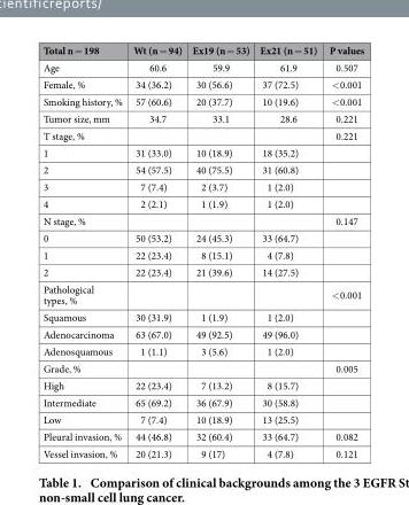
<table><thead><tr><td>Total n = 198</td><td>Wt (n = 94)</td><td>Ex19 (n = 53)</td><td>Ex21 (n = 51)</td><td>P values</td></tr></thead><tbody><tr><td>Age</td><td>60.6</td><td>59.9</td><td>61.9</td><td>0.507</td></tr><tr><td>Female, %</td><td>34 (36.2)</td><td>30 (56.6)</td><td>37 (72.5)</td><td>&lt; 0.001</td></tr><tr><td>Smoking history, %</td><td>57 (60.6)</td><td>20 (37.7)</td><td>10 (19.6)</td><td>&lt; 0.001</td></tr><tr><td>Tumor size, mm</td><td>34.7</td><td>33.1</td><td>28.6</td><td>0.221</td></tr><tr><td>T stage, %</td><td></td><td></td><td></td><td>0.221</td></tr><tr><td>1</td><td>31 (33.0)</td><td>10 (18.9)</td><td>18 (35.2)</td><td></td></tr><tr><td>2</td><td>54 (57.5)</td><td>40 (75.5)</td><td>31 (60.8)</td><td></td></tr><tr><td>3</td><td>7 (7.4)</td><td>2 (3.7)</td><td>1 (2.0)</td><td></td></tr><tr><td>4</td><td>2 (2.1)</td><td>1 (1.9)</td><td>1 (2.0)</td><td></td></tr><tr><td>N stage, %</td><td></td><td></td><td></td><td>0.147</td></tr><tr><td>0</td><td>50 (53.2)</td><td>24 (45.3)</td><td>33 (64.7)</td><td></td></tr><tr><td>1</td><td>22 (23.4)</td><td>8 (15.1)</td><td>4 (7.8)</td><td></td></tr><tr><td>2</td><td>22 (23.4)</td><td>21 (39.6)</td><td>14 (27.5)</td><td></td></tr><tr><td>Pathological types, %</td><td></td><td></td><td></td><td>&lt; 0.001</td></tr><tr><td>Squamous</td><td>30 (31.9)</td><td>1 (1.9)</td><td>1 (2.0)</td><td></td></tr><tr><td>Adenocarcinoma</td><td>63 (67.0)</td><td>49 (92.5)</td><td>49 (96.0)</td><td></td></tr><tr><td>Adenosquamous</td><td>1 (1.1)</td><td>3 (5.6)</td><td>1 (2.0)</td><td></td></tr><tr><td>Grade, %</td><td></td><td></td><td></td><td>0.005</td></tr><tr><td>High</td><td>22 (23.4)</td><td>7 (13.2)</td><td>8 (15.7)</td><td></td></tr><tr><td>Intermediate</td><td>65 (69.2)</td><td>36 (67.9)</td><td>30 (58.8)</td><td></td></tr><tr><td>Low</td><td>7 (7.4)</td><td>10 (18.9)</td><td>13 (25.5)</td><td></td></tr><tr><td>Pleural invasion, %</td><td>44 (46.8)</td><td>32 (60.4)</td><td>33 (64.7)</td><td>0.082</td></tr><tr><td>Vessel invasion, %</td><td>20 (21.3)</td><td>9 (17)</td><td>4 (7.8)</td><td>0.121</td></tr></tbody></table>